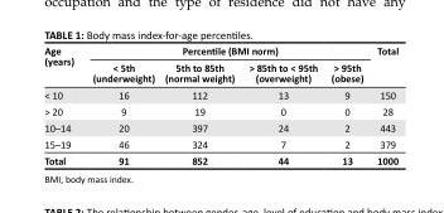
<table><thead><tr><td rowspan="2">Age (years)</td><td colspan="4">Percentile (BMI norm)</td><td rowspan="2">Total</td></tr><tr><td>&lt; 5th (underweight)</td><td>5th to 85th (normal weight)</td><td>&gt; 85th to &lt; 95th (overweight)</td><td>&gt; 95th (obese)</td></tr></thead><tbody><tr><td>&lt; 10</td><td>16</td><td>112</td><td>13</td><td>9</td><td>150</td></tr><tr><td>&gt; 20</td><td>9</td><td>19</td><td>0</td><td>0</td><td>28</td></tr><tr><td>10–14</td><td>20</td><td>397</td><td>24</td><td>2</td><td>443</td></tr><tr><td>15–19</td><td>46</td><td>324</td><td>7</td><td>2</td><td>379</td></tr><tr><td>Total</td><td>91</td><td>852</td><td>44</td><td>13</td><td>1000</td></tr></tbody></table>